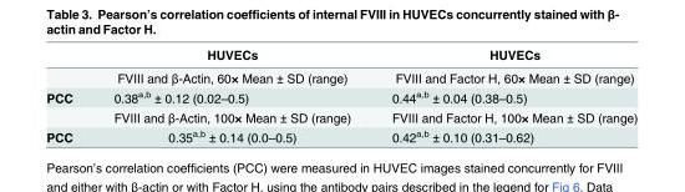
<table><thead><tr><td></td><td>HUVECs</td><td>HUVECs</td></tr></thead><tbody><tr><td></td><td>FVIII and β-Actin, 60× Mean ± SD (range)</td><td>FVIII and Factor H, 60× Mean ± SD (range)</td></tr><tr><td rowspan="2">PCC</td><td>0.38<sup>a,b</sup> ± 0.12 (0.02–0.5)</td><td>0.44<sup>a,b</sup> ± 0.04 (0.38–0.5)</td></tr><tr><td>FVIII and β-Actin, 100× Mean ± SD (range)</td><td>FVIII and Factor H, 100× Mean ± SD (range)</td></tr><tr><td>PCC</td><td>0.35<sup>a,b</sup> ± 0.14 (0.0–0.5)</td><td>0.42<sup>a,b</sup> ± 0.10 (0.31–0.62)</td></tr></tbody></table>